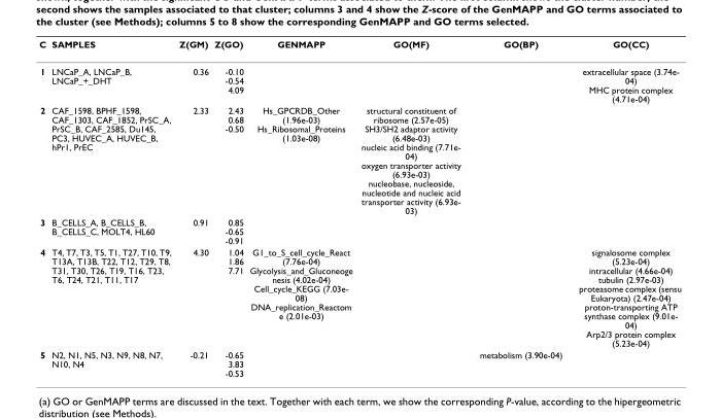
<table><thead><tr><td>C</td><td>SAMPLES</td><td>Z(GM)</td><td>Z(GO)</td><td>GENMAPP</td><td>GO(MF)</td><td>GO(BP)</td><td>GO(CC)</td></tr></thead><tbody><tr><td>1</td><td>LNCaP_A, LNCaP_B, LNCaP_+_DHT</td><td>0.36</td><td>-0.10 -0.54 4.09</td><td></td><td></td><td></td><td>extracellular space (3.74e- 04) MHC protein complex (4.71e-04)</td></tr><tr><td>2</td><td>CAF_1598, BPHF_1598, CAF_1303, CAF_1852, PrSC_A, PrSC_B, CAF_2585, Du145, PC3, HUVEC_A, HUVEC_B, hPr1, PrEC</td><td>2.33</td><td>2.43 0.68 -0.50</td><td>Hs_GPCRDB_Other (1.96e-03) Hs_Ribosomal_Proteins (1.03e-08)</td><td>structural constituent of ribosome (2.57e-05) SH3/SH2 adaptor activity (6.48e-03) nucleic acid binding (7.71e- 04) oxygen transporter activity (6.93e-03) nucleobase, nucleoside, nucleotide and nucleic acid transporter activity (6.93e- 03)</td><td></td><td></td></tr><tr><td>3</td><td>B_CELLS_A, B_CELLS_B, B_CELLS_C, MOLT4, HL60</td><td>0.91</td><td>0.85 -0.65 -0.91</td><td></td><td></td><td></td><td></td></tr><tr><td>4</td><td>T4, T7, T3, T5, T1, T27, T10, T9, T13A, T13B, T22, T12, T29, T8, T31, T30, T26, T19, T16, T23, T6, T24, T21, T11, T17</td><td>4.30</td><td>1.04 1.86 7.71</td><td>G1_to_S_cell_cycle_React (7.76e-04) Glycolysis_and_Gluconeoge nesis (4.02e-04) Cell_cycle_KEGG (7.03e- 08) DNA_replication_Reactom e (2.01e-03)</td><td></td><td></td><td>signalosome complex (5.23e-04) intracellular (4.66e-04) tubulin (2.97e-03) proteasome complex (sensu Eukaryota) (2.47e-04) proton-transporting ATP synthase complex (9.01e- 04) Arp2/3 protein complex (5.23e-04)</td></tr><tr><td>5</td><td>N2, N1, N5, N3, N9, N8, N7, N10, N4</td><td>-0.21</td><td>-0.65 3.83 -0.53</td><td></td><td></td><td>metabolism (3.90e-04)</td><td></td></tr></tbody></table>